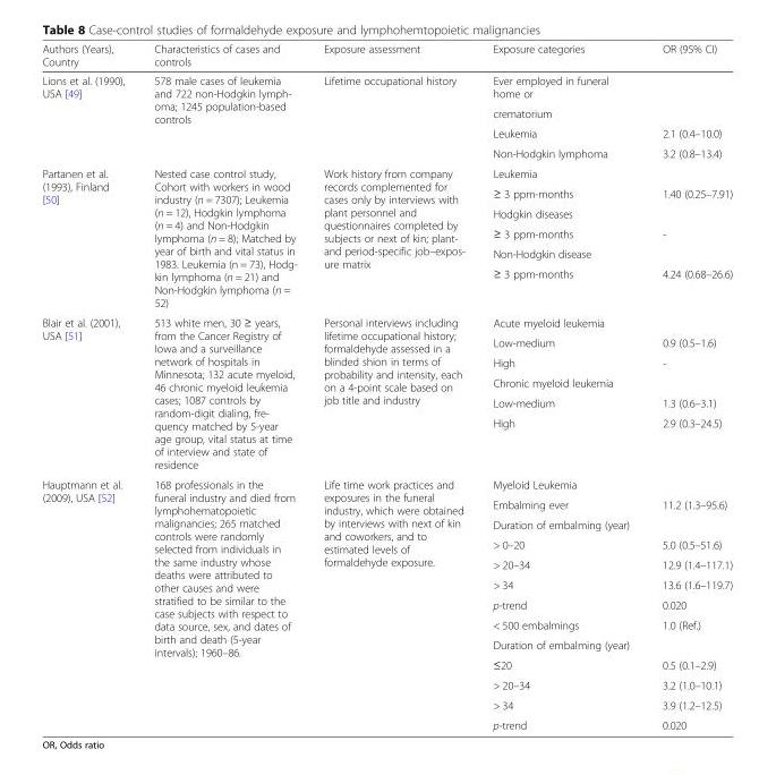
<table><thead><tr><td>Authors (Years), Country</td><td>Characteristics of cases and controls</td><td>Exposure assessment</td><td>Exposure categories</td><td>OR (95% CI)</td></tr></thead><tbody><tr><td rowspan="4">Lions et al. (1990), USA [49]</td><td rowspan="4">578 male cases of leukemia and 722 non-Hodgkin lymph- oma; 1245 population-based controls</td><td rowspan="4">Lifetime occupational history</td><td>Ever employed in funeral home or</td><td></td></tr><tr><td>crematorium</td><td></td></tr><tr><td>Leukemia</td><td>2.1 (0.4–10.0)</td></tr><tr><td>Non-Hodgkin lymphoma</td><td>3.2 (0.8–13.4)</td></tr><tr><td rowspan="6">Partanen et al. (1993), Finland [50]</td><td rowspan="6">Nested case control study, Cohort with workers in wood industry (n = 7307); Leukemia (n = 12), Hodgkin lymphoma (n = 4) and Non-Hodgkin lymphoma (n = 8); Matched by year of birth and vital status in 1983. Leukemia (n = 73), Hodg- kin lymphoma (n = 21) and Non-Hodgkin lymphoma (n = 52)</td><td rowspan="6">Work history from company records complemented for cases only by interviews with plant personnel and questionnaires completed by subjects or next of kin; plant- and period-specific job–expos- ure matrix</td><td>Leukemia</td><td></td></tr><tr><td>≥ 3 ppm-months</td><td>1.40 (0.25–7.91)</td></tr><tr><td>Hodgkin diseases</td><td></td></tr><tr><td>≥ 3 ppm-months</td><td>-</td></tr><tr><td>Non-Hodgkin disease</td><td></td></tr><tr><td>≥ 3 ppm-months</td><td>4.24 (0.68–26.6)</td></tr><tr><td rowspan="6">Blair et al. (2001), USA [51]</td><td rowspan="6">513 white men, 30 ≥ years, from the Cancer Registry of Iowa and a surveillance network of hospitals in Minnesota; 132 acute myeloid, 46 chronic myeloid leukemia cases; 1087 controls by random-digit dialing, fre- quency matched by 5-year age group, vital status at time of interview and state of residence</td><td rowspan="6">Personal interviews including lifetime occupational history; formaldehyde assessed in a blinded shion in terms of probability and intensity, each on a 4-point scale based on job title and industry</td><td>Acute myeloid leukemia</td><td></td></tr><tr><td>Low-medium</td><td>0.9 (0.5–1.6)</td></tr><tr><td>High</td><td>-</td></tr><tr><td>Chronic myeloid leukemia</td><td></td></tr><tr><td>Low-medium</td><td>1.3 (0.6–3.1)</td></tr><tr><td>High</td><td>2.9 (0.3–24.5)</td></tr><tr><td rowspan="13">Hauptmann et al. (2009), USA [52]</td><td rowspan="13">168 professionals in the funeral industry and died from lymphohematopoietic malignancies; 265 matched controls were randomly selected from individuals in the same industry whose deaths were attributed to other causes and were stratified to be similar to the case subjects with respect to data source, sex, and dates of birth and death (5-year intervals); 1960–86.</td><td rowspan="13">Life time work practices and exposures in the funeral industry, which were obtained by interviews with next of kin and coworkers, and to estimated levels of formaldehyde exposure.</td><td>Myeloid Leukemia</td><td></td></tr><tr><td>Embalming ever</td><td>11.2 (1.3–95.6)</td></tr><tr><td>Duration of embalming (year)</td><td></td></tr><tr><td>&gt; 0–20</td><td>5.0 (0.5–51.6)</td></tr><tr><td>&gt; 20–34</td><td>12.9 (1.4–117.1)</td></tr><tr><td>&gt; 34</td><td>13.6 (1.6–119.7)</td></tr><tr><td>p-trend</td><td>0.020</td></tr><tr><td>&lt; 500 embalmings</td><td>1.0 (Ref.)</td></tr><tr><td>Duration of embalming (year)</td><td></td></tr><tr><td>≤20</td><td>0.5 (0.1–2.9)</td></tr><tr><td>&gt; 20–34</td><td>3.2 (1.0–10.1)</td></tr><tr><td>&gt; 34</td><td>3.9 (1.2–12.5)</td></tr><tr><td>p-trend</td><td>0.020</td></tr></tbody></table>